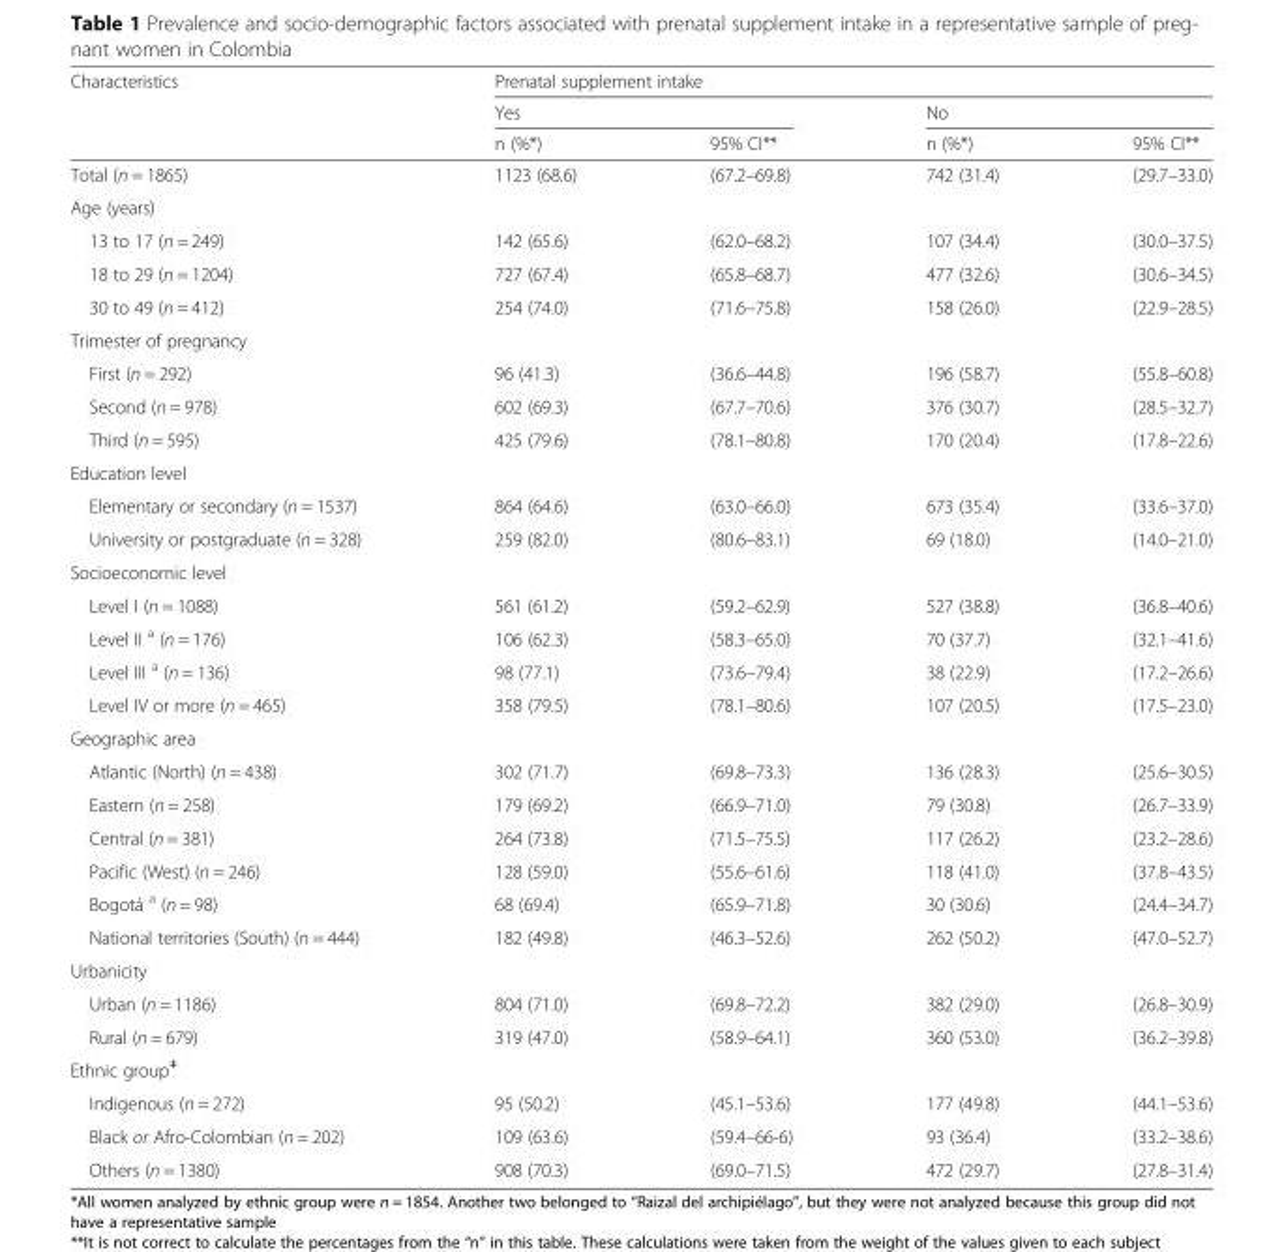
<table><thead><tr><td rowspan="3">Characteristics</td><td colspan="4">Prenatal supplement intake</td></tr><tr><td colspan="2">Yes</td><td colspan="2">No</td></tr><tr><td>n (%*)</td><td>95% CI**</td><td>n (%*)</td><td>95% CI**</td></tr></thead><tbody><tr><td>Total (n = 1865)</td><td>1123 (68.6)</td><td>(67.2–69.8)</td><td>742 (31.4)</td><td>(29.7–33.0)</td></tr><tr><td colspan="5">Age (years)</td></tr><tr><td>13 to 17 (n = 249)</td><td>142 (65.6)</td><td>(62.0–68.2)</td><td>107 (34.4)</td><td>(30.0–37.5)</td></tr><tr><td>18 to 29 (n = 1204)</td><td>727 (67.4)</td><td>(65.8–68.7)</td><td>477 (32.6)</td><td>(30.6–34.5)</td></tr><tr><td>30 to 49 (n = 412)</td><td>254 (74.0)</td><td>(71.6–75.8)</td><td>158 (26.0)</td><td>(22.9–28.5)</td></tr><tr><td colspan="5">Trimester of pregnancy</td></tr><tr><td>First (n = 292)</td><td>96 (41.3)</td><td>(36.6–44.8)</td><td>196 (58.7)</td><td>(55.8–60.8)</td></tr><tr><td>Second (n = 978)</td><td>602 (69.3)</td><td>(67.7–70.6)</td><td>376 (30.7)</td><td>(28.5–32.7)</td></tr><tr><td>Third (n = 595)</td><td>425 (79.6)</td><td>(78.1–80.8)</td><td>170 (20.4)</td><td>(17.8–22.6)</td></tr><tr><td colspan="5">Education level</td></tr><tr><td>Elementary or secondary (n = 1537)</td><td>864 (64.6)</td><td>(63.0–66.0)</td><td>673 (35.4)</td><td>(33.6–37.0)</td></tr><tr><td>University or postgraduate (n = 328)</td><td>259 (82.0)</td><td>(80.6–83.1)</td><td>69 (18.0)</td><td>(14.0–21.0)</td></tr><tr><td colspan="5">Socioeconomic level</td></tr><tr><td>Level I (n = 1088)</td><td>561 (61.2)</td><td>(59.2–62.9)</td><td>527 (38.8)</td><td>(36.8–40.6)</td></tr><tr><td>Level II <sup>a</sup> (n = 176)</td><td>106 (62.3)</td><td>(58.3–65.0)</td><td>70 (37.7)</td><td>(32.1–41.6)</td></tr><tr><td>Level III <sup>a</sup> (n = 136)</td><td>98 (77.1)</td><td>(73.6–79.4)</td><td>38 (22.9)</td><td>(17.2–26.6)</td></tr><tr><td>Level IV or more (n = 465)</td><td>358 (79.5)</td><td>(78.1–80.6)</td><td>107 (20.5)</td><td>(17.5–23.0)</td></tr><tr><td colspan="5">Geographic area</td></tr><tr><td>Atlantic (North) (n = 438)</td><td>302 (71.7)</td><td>(69.8–73.3)</td><td>136 (28.3)</td><td>(25.6–30.5)</td></tr><tr><td>Eastern (n = 258)</td><td>179 (69.2)</td><td>(66.9–71.0)</td><td>79 (30.8)</td><td>(26.7–33.9)</td></tr><tr><td>Central (n = 381)</td><td>264 (73.8)</td><td>(71.5–75.5)</td><td>117 (26.2)</td><td>(23.2–28.6)</td></tr><tr><td>Pacific (West) (n = 246)</td><td>128 (59.0)</td><td>(55.6–61.6)</td><td>118 (41.0)</td><td>(37.8–43.5)</td></tr><tr><td>Bogotá <sup>a</sup> (n = 98)</td><td>68 (69.4)</td><td>(65.9–71.8)</td><td>30 (30.6)</td><td>(24.4–34.7)</td></tr><tr><td>National territories (South) (n = 444)</td><td>182 (49.8)</td><td>(46.3–52.6)</td><td>262 (50.2)</td><td>(47.0–52.7)</td></tr><tr><td colspan="5">Urbanicity</td></tr><tr><td>Urban (n = 1186)</td><td>804 (71.0)</td><td>(69.8–72.2)</td><td>382 (29.0)</td><td>(26.8–30.9)</td></tr><tr><td>Rural (n = 679)</td><td>319 (47.0)</td><td>(58.9–64.1)</td><td>360 (53.0)</td><td>(36.2–39.8)</td></tr><tr><td colspan="5">Ethnic group<sup>≠</sup></td></tr><tr><td>Indigenous (n = 272)</td><td>95 (50.2)</td><td>(45.1–53.6)</td><td>177 (49.8)</td><td>(44.1–53.6)</td></tr><tr><td>Black or Afro-Colombian (n = 202)</td><td>109 (63.6)</td><td>(59.4–66-6)</td><td>93 (36.4)</td><td>(33.2–38.6)</td></tr><tr><td>Others (n = 1380)</td><td>908 (70.3)</td><td>(69.0–71.5)</td><td>472 (29.7)</td><td>(27.8–31.4)</td></tr></tbody></table>